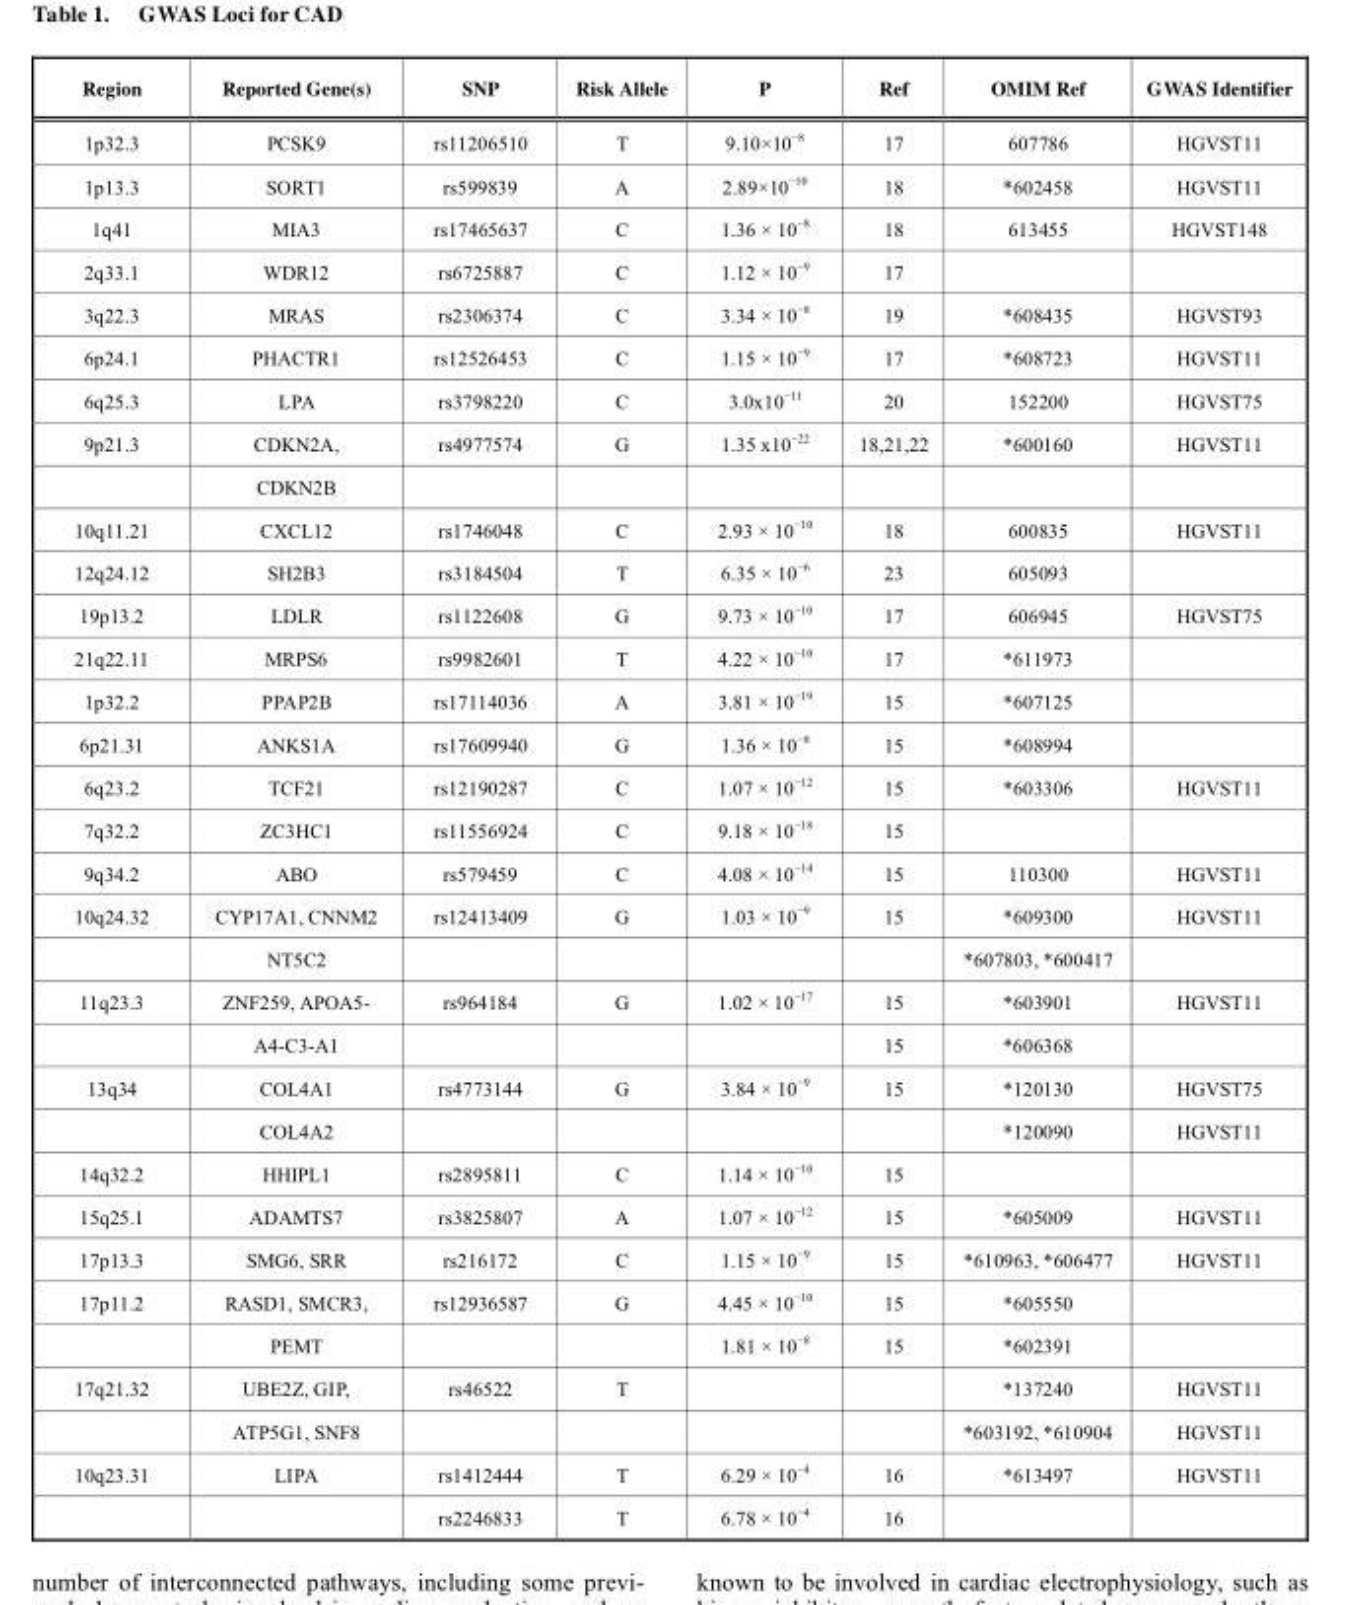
<table><thead><tr><td>Region</td><td>Reported Gene(s)</td><td>SNP</td><td>Risk Allele</td><td>P</td><td>Ref</td><td>OMIM Ref</td><td>GWAS Identifier</td></tr></thead><tbody><tr><td>1p32.3</td><td>PCSK9</td><td>rs11206510</td><td>T</td><td>9.10×10<sup>–8</sup></td><td>17</td><td>607786</td><td>HGVST11</td></tr><tr><td>1p13.3</td><td>SORT1</td><td>rs599839</td><td>A</td><td>2.89×10<sup>–10</sup></td><td>18</td><td>*602458</td><td>HGVST11</td></tr><tr><td>1q41</td><td>MIA3</td><td>rs17465637</td><td>C</td><td>1.36 × 10<sup>–8</sup></td><td>18</td><td>613455</td><td>HGVST148</td></tr><tr><td>2q33.1</td><td>WDR12</td><td>rs6725887</td><td>C</td><td>1.12 × 10<sup>–9</sup></td><td>17</td><td></td><td></td></tr><tr><td>3q22.3</td><td>MRAS</td><td>rs2306374</td><td>C</td><td>3.34 × 10<sup>–8</sup></td><td>19</td><td>*608435</td><td>HGVST93</td></tr><tr><td>6p24.1</td><td>PHACTR1</td><td>rs12526453</td><td>C</td><td>1.15 × 10<sup>–9</sup></td><td>17</td><td>*608723</td><td>HGVST11</td></tr><tr><td>6q25.3</td><td>LPA</td><td>rs3798220</td><td>C</td><td>3.0x10<sup>–11</sup></td><td>20</td><td>152200</td><td>HGVST75</td></tr><tr><td rowspan="2">9p21.3</td><td>CDKN2A,</td><td>rs4977574</td><td>G</td><td>1.35 x10<sup>–22</sup></td><td>18,21,22</td><td>*600160</td><td>HGVST11</td></tr><tr><td>CDKN2B</td><td></td><td></td><td></td><td></td><td></td><td></td></tr><tr><td>10q11.21</td><td>CXCL12</td><td>rs1746048</td><td>C</td><td>2.93 × 10<sup>–10</sup></td><td>18</td><td>600835</td><td>HGVST11</td></tr><tr><td>12q24.12</td><td>SH2B3</td><td>rs3184504</td><td>T</td><td>6.35 × 10<sup>–6</sup></td><td>23</td><td>605093</td><td></td></tr><tr><td>19p13.2</td><td>LDLR</td><td>rs1122608</td><td>G</td><td>9.73 × 10<sup>–10</sup></td><td>17</td><td>606945</td><td>HGVST75</td></tr><tr><td>21q22.11</td><td>MRPS6</td><td>rs9982601</td><td>T</td><td>4.22 × 10<sup>–10</sup></td><td>17</td><td>*611973</td><td></td></tr><tr><td>1p32.2</td><td>PPAP2B</td><td>rs17114036</td><td>A</td><td>3.81 × 10<sup>–19</sup></td><td>15</td><td>*607125</td><td></td></tr><tr><td>6p21.31</td><td>ANKS1A</td><td>rs17609940</td><td>G</td><td>1.36 × 10<sup>–8</sup></td><td>15</td><td>*608994</td><td></td></tr><tr><td>6q23.2</td><td>TCF21</td><td>rs12190287</td><td>C</td><td>1.07 × 10<sup>–12</sup></td><td>15</td><td>*603306</td><td>HGVST11</td></tr><tr><td>7q32.2</td><td>ZC3HC1</td><td>rs11556924</td><td>C</td><td>9.18 × 10<sup>–18</sup></td><td>15</td><td></td><td></td></tr><tr><td>9q34.2</td><td>ABO</td><td>rs579459</td><td>C</td><td>4.08 × 10<sup>–14</sup></td><td>15</td><td>110300</td><td>HGVST11</td></tr><tr><td rowspan="2">10q24.32</td><td>CYP17A1, CNNM2</td><td>rs12413409</td><td>G</td><td>1.03 × 10<sup>–9</sup></td><td>15</td><td>*609300</td><td>HGVST11</td></tr><tr><td>NT5C2</td><td></td><td></td><td></td><td></td><td>*607803, *600417</td><td></td></tr><tr><td rowspan="2">11q23.3</td><td>ZNF259, APOA5-</td><td>rs964184</td><td>G</td><td>1.02 × 10<sup>–17</sup></td><td>15</td><td>*603901</td><td>HGVST11</td></tr><tr><td>A4-C3-A1</td><td></td><td></td><td></td><td>15</td><td>*606368</td><td></td></tr><tr><td rowspan="2">13q34</td><td>COL4A1</td><td>rs4773144</td><td>G</td><td>3.84 × 10<sup>–9</sup></td><td>15</td><td>*120130</td><td>HGVST75</td></tr><tr><td>COL4A2</td><td></td><td></td><td></td><td></td><td>*120090</td><td>HGVST11</td></tr><tr><td>14q32.2</td><td>HHIPL1</td><td>rs2895811</td><td>C</td><td>1.14 × 10<sup>–10</sup></td><td>15</td><td></td><td></td></tr><tr><td>15q25.1</td><td>ADAMTS7</td><td>rs3825807</td><td>A</td><td>1.07 × 10<sup>–12</sup></td><td>15</td><td>*605009</td><td>HGVST11</td></tr><tr><td>17p13.3</td><td>SMG6, SRR</td><td>rs216172</td><td>C</td><td>1.15 × 10<sup>–9</sup></td><td>15</td><td>*610963, *606477</td><td>HGVST11</td></tr><tr><td rowspan="2">17p11.2</td><td>RASD1, SMCR3,</td><td>rs12936587</td><td>G</td><td>4.45 × 10<sup>–10</sup></td><td>15</td><td>*605550</td><td></td></tr><tr><td>PEMT</td><td></td><td></td><td>1.81 × 10<sup>–8</sup></td><td>15</td><td>*602391</td><td></td></tr><tr><td rowspan="2">17q21.32</td><td>UBE2Z, GIP,</td><td>rs46522</td><td>T</td><td></td><td></td><td>*137240</td><td>HGVST11</td></tr><tr><td>ATP5G1, SNF8</td><td></td><td></td><td></td><td></td><td>*603192, *610904</td><td>HGVST11</td></tr><tr><td rowspan="2">10q23.31</td><td>LIPA</td><td>rs1412444</td><td>T</td><td>6.29 × 10<sup>–4</sup></td><td>16</td><td>*613497</td><td>HGVST11</td></tr><tr><td></td><td>rs2246833</td><td>T</td><td>6.78 × 10<sup>–4</sup></td><td>16</td><td></td><td></td></tr></tbody></table>